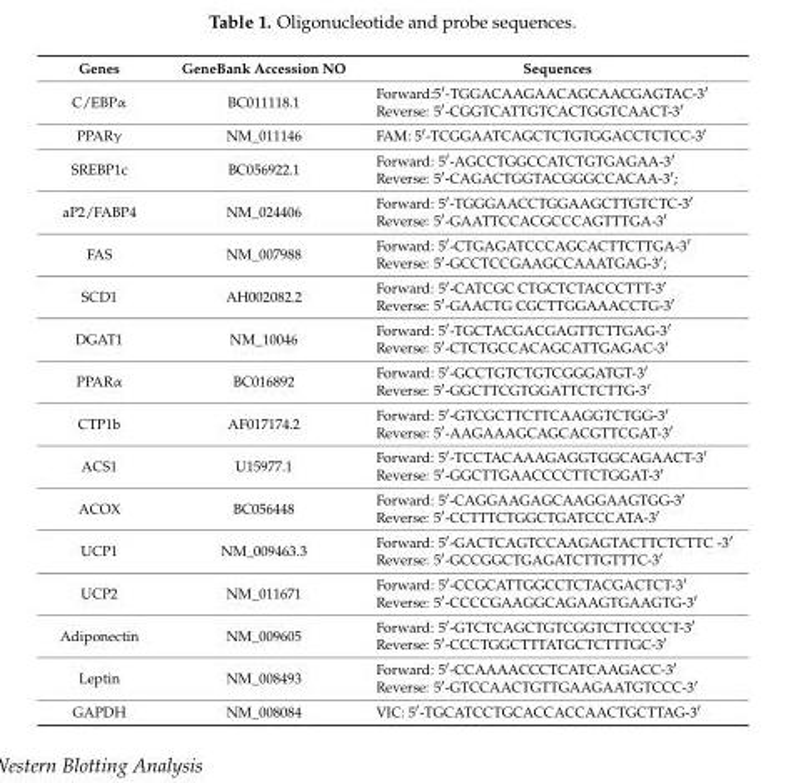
<table><thead><tr><td>Genes</td><td>GeneBank Accession NO</td><td>Sequences</td></tr></thead><tbody><tr><td>C/EBPα</td><td>BC011118.1</td><td>Forward:5′-TGGACAAGAACAGCAACGAGTAC-3′ Reverse: 5′-CGGTCATTGTCACTGGTCAACT-3′</td></tr><tr><td>PPARγ</td><td>NM_011146</td><td>FAM: 5′-TCGGAATCAGCTCTGTGGACCTCTCC-3′</td></tr><tr><td>SREBP1c</td><td>BC056922.1</td><td>Forward: 5′-AGCCTGGCCATCTGTGAGAA-3′ Reverse: 5′-CAGACTGGTACGGGCCACAA-3′;</td></tr><tr><td>aP2/FABP4</td><td>NM_024406</td><td>Forward: 5′-TGGGAACCTGGAAGCTTGTCTC-3′ Reverse: 5′-GAATTCCACGCCCAGTTTGA-3′</td></tr><tr><td>FAS</td><td>NM_007988</td><td>Forward: 5′-CTGAGATCCCAGCACTTCTTGA-3′ Reverse: 5′-GCCTCCGAAGCCAAATGAG-3′;</td></tr><tr><td>SCD1</td><td>AH002082.2</td><td>Forward: 5′-CATCGC CTGCTCTACCCTTT-3′ Reverse: 5′-GAACTG CGCTTGGAAACCTG-3′</td></tr><tr><td>DGAT1</td><td>NM_10046</td><td>Forward: 5′-TGCTACGACGAGTTCTTGAG-3′ Reverse: 5′-CTCTGCCACAGCATTGAGAC-3′</td></tr><tr><td>PPARα</td><td>BC016892</td><td>Forward: 5′-GCCTGTCTGTCGGGATGT-3′ Reverse: 5′-GGCTTCGTGGATTCTCTTG-3′</td></tr><tr><td>CTP1b</td><td>AF017174.2</td><td>Forward: 5′-GTCGCTTCTTCAAGGTCTGG-3′ Reverse: 5′-AAGAAAGCAGCACGTTCGAT-3′</td></tr><tr><td>ACS1</td><td>U15977.1</td><td>Forward: 5′-TCCTACAAAGAGGTGGCAGAACT-3′ Reverse: 5′-GGCTTGAACCCCTTCTGGAT-3′</td></tr><tr><td>ACOX</td><td>BC056448</td><td>Forward: 5′-CAGGAAGAGCAAGGAAGTGG-3′ Reverse: 5′-CCTTTCTGGCTGATCCCATA-3′</td></tr><tr><td>UCP1</td><td>NM_009463.3</td><td>Forward: 5′-GACTCAGTCCAAGAGTACTTCTCTTC -3′ Reverse: 5′-GCCGGCTGAGATCTTGTTTC-3′</td></tr><tr><td>UCP2</td><td>NM_011671</td><td>Forward: 5′-CCGCATTGGCCTCTACGACTCT-3′ Reverse: 5′-CCCCGAAGGCAGAAGTGAAGTG-3′</td></tr><tr><td>Adiponectin</td><td>NM_009605</td><td>Forward: 5′-GTCTCAGCTGTCGGTCTTCCCCT-3′ Reverse: 5′-CCCTGGCTTTATGCTCTTTGC-3′</td></tr><tr><td>Leptin</td><td>NM_008493</td><td>Forward: 5′-CCAAAACCCTCATCAAGACC-3′ Reverse: 5′-GTCCAACTGTTGAAGAATGTCCC-3′</td></tr><tr><td>GAPDH</td><td>NM_008084</td><td>VIC: 5′-TGCATCCTGCACCACCAACTGCTTAG-3′</td></tr></tbody></table>